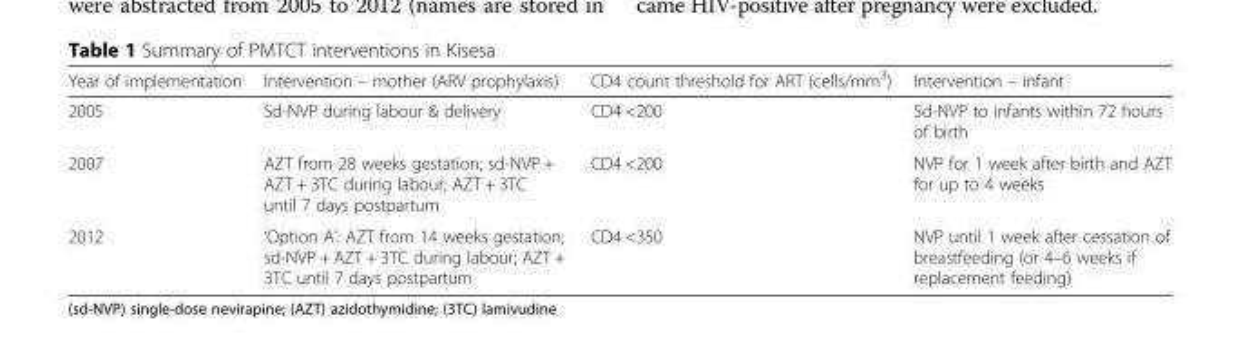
<table><thead><tr><td>Year of implementation</td><td>Intervention – mother (ARV prophylaxis)</td><td>CD4 count threshold for ART (cells/mm<sup>3</sup>)</td><td>Intervention – infant</td></tr></thead><tbody><tr><td>2005</td><td>Sd-NVP during labour &amp; delivery</td><td>CD4 &lt;200</td><td>Sd-NVP to infants within 72 hours of birth</td></tr><tr><td>2007</td><td>AZT from 28 weeks gestation; sd-NVP + AZT + 3TC during labour; AZT + 3TC until 7 days postpartum</td><td>CD4 &lt;200</td><td>NVP for 1 week after birth and AZT for up to 4 weeks</td></tr><tr><td>2012</td><td>‘Option A’: AZT from 14 weeks gestation; sd-NVP + AZT + 3TC during labour; AZT + 3TC until 7 days postpartum</td><td>CD4 &lt;350</td><td>NVP until 1 week after cessation of breastfeeding (or 4–6 weeks if replacement feeding)</td></tr></tbody></table>